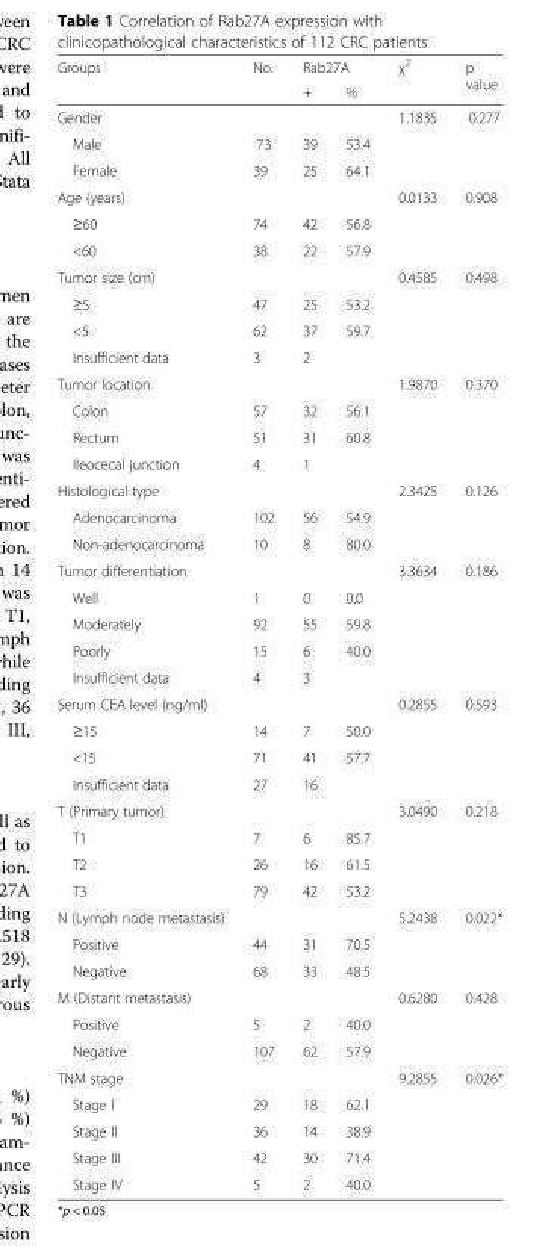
<table><thead><tr><td rowspan="2">Groups</td><td rowspan="2">No.</td><td colspan="2">Rab27A</td><td rowspan="2">χ<sup>2</sup></td><td rowspan="2">p value</td></tr><tr><td>+</td><td>%</td></tr></thead><tbody><tr><td colspan="4">Gender</td><td rowspan="3">1.1835</td><td rowspan="3">0.277</td></tr><tr><td>Male</td><td>73</td><td>39</td><td>53.4</td></tr><tr><td>Female</td><td>39</td><td>25</td><td>64.1</td></tr><tr><td colspan="4">Age (years)</td><td rowspan="3">0.0133</td><td rowspan="3">0.908</td></tr><tr><td>≥60</td><td>74</td><td>42</td><td>56.8</td></tr><tr><td>&lt;60</td><td>38</td><td>22</td><td>57.9</td></tr><tr><td colspan="4">Tumor size (cm)</td><td rowspan="4">0.4585</td><td rowspan="4">0.498</td></tr><tr><td>≥5</td><td>47</td><td>25</td><td>53.2</td></tr><tr><td>&lt;5</td><td>62</td><td>37</td><td>59.7</td></tr><tr><td>Insufficient data</td><td>3</td><td>2</td><td></td></tr><tr><td colspan="4">Tumor location</td><td rowspan="4">1.9870</td><td rowspan="4">0.370</td></tr><tr><td>Colon</td><td>57</td><td>32</td><td>56.1</td></tr><tr><td>Rectum</td><td>51</td><td>31</td><td>60.8</td></tr><tr><td>Ileocecal junction</td><td>4</td><td>1</td><td></td></tr><tr><td colspan="4">Histological type</td><td rowspan="3">2.3425</td><td rowspan="3">0.126</td></tr><tr><td>Adenocarcinoma</td><td>102</td><td>56</td><td>54.9</td></tr><tr><td>Non-adenocarcinoma</td><td>10</td><td>8</td><td>80.0</td></tr><tr><td colspan="4">Tumor differentiation</td><td rowspan="5">3.3634</td><td rowspan="5">0.186</td></tr><tr><td>Well</td><td>1</td><td>0</td><td>0.0</td></tr><tr><td>Moderately</td><td>92</td><td>55</td><td>59.8</td></tr><tr><td>Poorly</td><td>15</td><td>6</td><td>40.0</td></tr><tr><td>Insufficient data</td><td>4</td><td>3</td><td></td></tr><tr><td colspan="4">Serum CEA level (ng/ml)</td><td rowspan="4">0.2855</td><td rowspan="4">0.593</td></tr><tr><td>≥15</td><td>14</td><td>7</td><td>50.0</td></tr><tr><td>&lt;15</td><td>71</td><td>41</td><td>57.7</td></tr><tr><td>Insufficient data</td><td>27</td><td>16</td><td></td></tr><tr><td colspan="4">T (Primary tumor)</td><td rowspan="4">3.0490</td><td rowspan="4">0.218</td></tr><tr><td>T1</td><td>7</td><td>6</td><td>85.7</td></tr><tr><td>T2</td><td>26</td><td>16</td><td>61.5</td></tr><tr><td>T3</td><td>79</td><td>42</td><td>53.2</td></tr><tr><td colspan="4">N (Lymph node metastasis)</td><td rowspan="3">5.2438</td><td rowspan="3">0.022*</td></tr><tr><td>Positive</td><td>44</td><td>31</td><td>70.5</td></tr><tr><td>Negative</td><td>68</td><td>33</td><td>48.5</td></tr><tr><td colspan="4">M (Distant metastasis)</td><td rowspan="3">0.6280</td><td rowspan="3">0.428</td></tr><tr><td>Positive</td><td>5</td><td>2</td><td>40.0</td></tr><tr><td>Negative</td><td>107</td><td>62</td><td>57.9</td></tr><tr><td colspan="4">TNM stage</td><td rowspan="5">9.2855</td><td rowspan="5">0.026*</td></tr><tr><td>Stage I</td><td>29</td><td>18</td><td>62.1</td></tr><tr><td>Stage II</td><td>36</td><td>14</td><td>38.9</td></tr><tr><td>Stage III</td><td>42</td><td>30</td><td>71.4</td></tr><tr><td>Stage IV</td><td>5</td><td>2</td><td>40.0</td></tr></tbody></table>